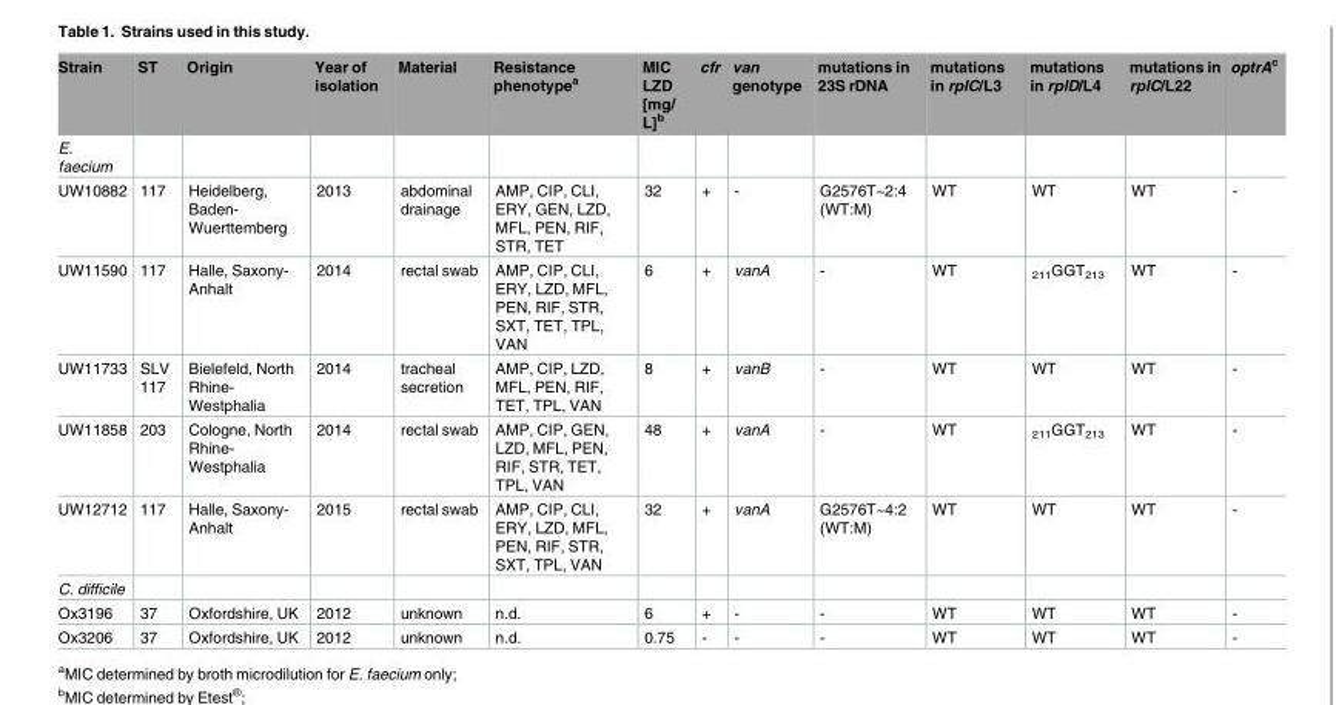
<table><thead><tr><td>Strain</td><td>ST</td><td>Origin</td><td>Year of isolation</td><td>Material</td><td>Resistance phenotype<sup>a</sup></td><td>MIC LZD [mg/ L]<sup>b</sup></td><td>cfr</td><td>van genotype</td><td>mutations in 23S rDNA</td><td>mutations in rplC/L3</td><td>mutations in rplD/L4</td><td>mutations in rplC/L22</td><td>optrA<sup>c</sup></td></tr></thead><tbody><tr><td colspan="14">E. faecium</td></tr><tr><td>UW10882</td><td>117</td><td>Heidelberg, Baden- Wuerttemberg</td><td>2013</td><td>abdominal drainage</td><td>AMP, CIP, CLI, ERY, GEN, LZD, MFL, PEN, RIF, STR, TET</td><td>32</td><td>+</td><td>-</td><td>G2576T~2:4 (WT:M)</td><td>WT</td><td>WT</td><td>WT</td><td>-</td></tr><tr><td>UW11590</td><td>117</td><td>Halle, Saxony- Anhalt</td><td>2014</td><td>rectal swab</td><td>AMP, CIP, CLI, ERY, LZD, MFL, PEN, RIF, STR, SXT, TET, TPL, VAN</td><td>6</td><td>+</td><td>vanA</td><td>-</td><td>WT</td><td><sub>211</sub>GGT<sub>213</sub></td><td>WT</td><td>-</td></tr><tr><td>UW11733</td><td>SLV 117</td><td>Bielefeld, North Rhine- Westphalia</td><td>2014</td><td>tracheal secretion</td><td>AMP, CIP, LZD, MFL, PEN, RIF, TET, TPL, VAN</td><td>8</td><td>+</td><td>vanB</td><td>-</td><td>WT</td><td>WT</td><td>WT</td><td>-</td></tr><tr><td>UW11858</td><td>203</td><td>Cologne, North Rhine- Westphalia</td><td>2014</td><td>rectal swab</td><td>AMP, CIP, GEN, LZD, MFL, PEN, RIF, STR, TET, TPL, VAN</td><td>48</td><td>+</td><td>vanA</td><td>-</td><td>WT</td><td><sub>211</sub>GGT<sub>213</sub></td><td>WT</td><td>-</td></tr><tr><td>UW12712</td><td>117</td><td>Halle, Saxony- Anhalt</td><td>2015</td><td>rectal swab</td><td>AMP, CIP, CLI, ERY, LZD, MFL, PEN, RIF, STR, SXT, TPL, VAN</td><td>32</td><td>+</td><td>vanA</td><td>G2576T~4:2 (WT:M)</td><td>WT</td><td>WT</td><td>WT</td><td>-</td></tr><tr><td colspan="14">C. difficile</td></tr><tr><td>Ox3196</td><td>37</td><td>Oxfordshire, UK</td><td>2012</td><td>unknown</td><td>n.d.</td><td>6</td><td>+</td><td>-</td><td>-</td><td>WT</td><td>WT</td><td>WT</td><td>-</td></tr><tr><td>Ox3206</td><td>37</td><td>Oxfordshire, UK</td><td>2012</td><td>unknown</td><td>n.d.</td><td>0.75</td><td>-</td><td>-</td><td>-</td><td>WT</td><td>WT</td><td>WT</td><td>-</td></tr></tbody></table>